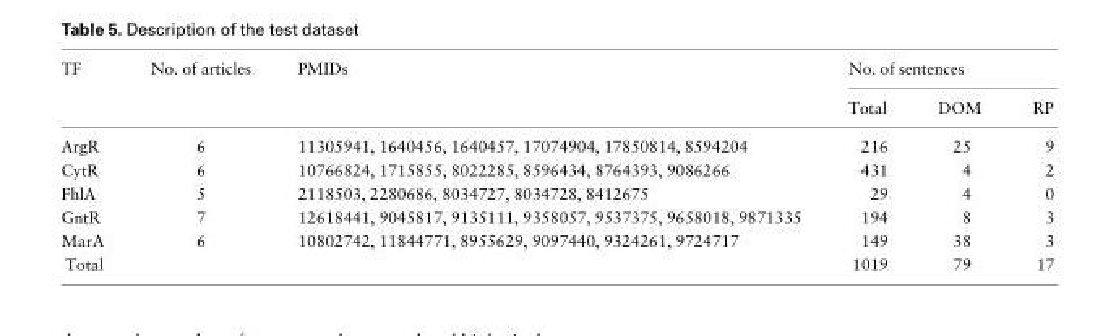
<table><thead><tr><td rowspan="2">TF</td><td rowspan="2">No. of articles</td><td rowspan="2">PMIDs</td><td colspan="3">No. of sentences</td></tr><tr><td>Total</td><td>DOM</td><td>RP</td></tr></thead><tbody><tr><td>ArgR</td><td>6</td><td>11305941, 1640456, 1640457, 17074904, 17850814, 8594204</td><td>216</td><td>25</td><td>9</td></tr><tr><td>CytR</td><td>6</td><td>10766824, 1715855, 8022285, 8596434, 8764393, 9086266</td><td>431</td><td>4</td><td>2</td></tr><tr><td>FhlA</td><td>5</td><td>2118503, 2280686, 8034727, 8034728, 8412675</td><td>29</td><td>4</td><td>0</td></tr><tr><td>GntR</td><td>7</td><td>12618441, 9045817, 9135111, 9358057, 9537375, 9658018, 9871335</td><td>194</td><td>8</td><td>3</td></tr><tr><td>MarA</td><td>6</td><td>10802742, 11844771, 8955629, 9097440, 9324261, 9724717</td><td>149</td><td>38</td><td>3</td></tr><tr><td>Total</td><td></td><td></td><td>1019</td><td>79</td><td>17</td></tr></tbody></table>